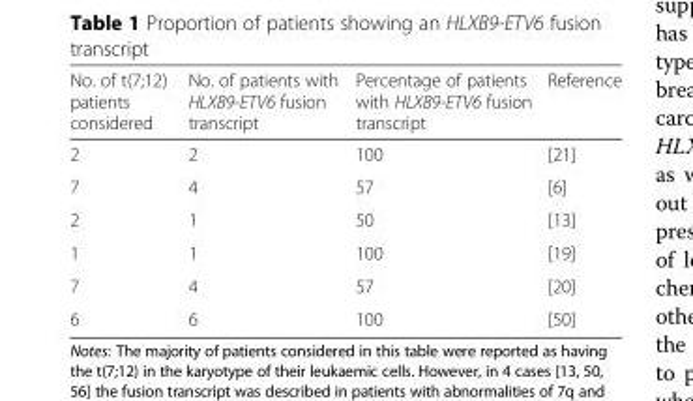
<table><thead><tr><td>No. of t(7;12) patients considered</td><td>No. of patients with HLXB9-ETV6 fusion transcript</td><td>Percentage of patients with HLXB9-ETV6 fusion transcript</td><td>Reference</td></tr></thead><tbody><tr><td>2</td><td>2</td><td>100</td><td>[21]</td></tr><tr><td>7</td><td>4</td><td>57</td><td>[6]</td></tr><tr><td>2</td><td>1</td><td>50</td><td>[13]</td></tr><tr><td>1</td><td>1</td><td>100</td><td>[19]</td></tr><tr><td>7</td><td>4</td><td>57</td><td>[20]</td></tr><tr><td>6</td><td>6</td><td>100</td><td>[50]</td></tr></tbody></table>